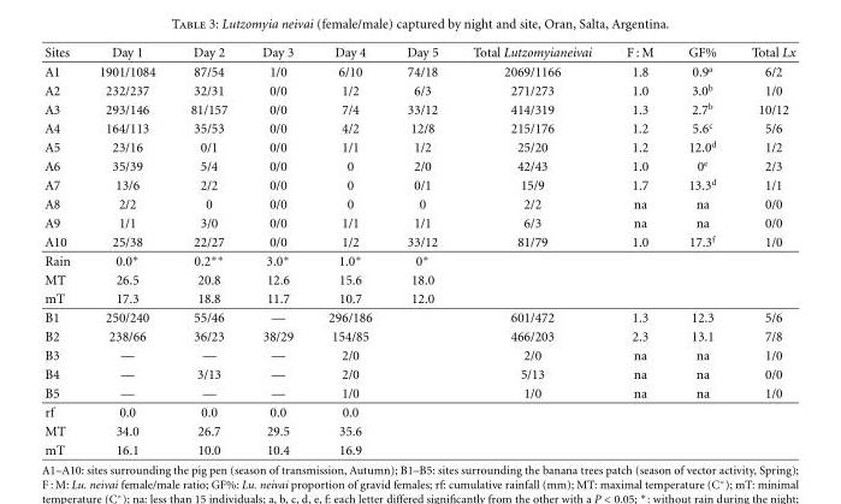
<table><thead><tr><td>Sites</td><td>Day 1</td><td>Day 2</td><td>Day 3</td><td>Day 4</td><td>Day 5</td><td>Total Lutzomyianeivai</td><td>F : M</td><td>GF%</td><td>Total Lx</td></tr></thead><tbody><tr><td>A1</td><td>1901/1084</td><td>87/54</td><td>1/0</td><td>6/10</td><td>74/18</td><td>2069/1166</td><td>1.8</td><td>0.9<sup>a</sup></td><td>6/2</td></tr><tr><td>A2</td><td>232/237</td><td>32/31</td><td>0/0</td><td>1/2</td><td>6/3</td><td>271/273</td><td>1.0</td><td>3.0<sup>b</sup></td><td>1/0</td></tr><tr><td>A3</td><td>293/146</td><td>81/157</td><td>0/0</td><td>7/4</td><td>33/12</td><td>414/319</td><td>1.3</td><td>2.7<sup>b</sup></td><td>10/12</td></tr><tr><td>A4</td><td>164/113</td><td>35/53</td><td>0/0</td><td>4/2</td><td>12/8</td><td>215/176</td><td>1.2</td><td>5.6<sup>c</sup></td><td>5/6</td></tr><tr><td>A5</td><td>23/16</td><td>0/1</td><td>0/0</td><td>1/1</td><td>1/2</td><td>25/20</td><td>1.2</td><td>12.0<sup>d</sup></td><td>1/2</td></tr><tr><td>A6</td><td>35/39</td><td>5/4</td><td>0/0</td><td>0</td><td>2/0</td><td>42/43</td><td>1.0</td><td>0<sup>e</sup></td><td>2/3</td></tr><tr><td>A7</td><td>13/6</td><td>2/2</td><td>0/0</td><td>0</td><td>0/1</td><td>15/9</td><td>1.7</td><td>13.3<sup>d</sup></td><td>1/1</td></tr><tr><td>A8</td><td>2/2</td><td>0</td><td>0/0</td><td>0</td><td>0</td><td>2/2</td><td>na</td><td>na</td><td>0/0</td></tr><tr><td>A9</td><td>1/1</td><td>3/0</td><td>0/0</td><td>1/1</td><td>1/1</td><td>6/3</td><td>na</td><td>na</td><td>0/0</td></tr><tr><td>A10</td><td>25/38</td><td>22/27</td><td>0/0</td><td>1/2</td><td>33/12</td><td>81/79</td><td>1.0</td><td>17.3<sup>f</sup></td><td>1/0</td></tr><tr><td>Rain</td><td>0.0∗</td><td>0.2∗∗</td><td>3.0∗</td><td>1.0∗</td><td>0∗</td><td></td><td></td><td></td><td></td></tr><tr><td>MT</td><td>26.5</td><td>20.8</td><td>12.6</td><td>15.6</td><td>18.0</td><td></td><td></td><td></td><td></td></tr><tr><td>mT</td><td>17.3</td><td>18.8</td><td>11.7</td><td>10.7</td><td>12.0</td><td></td><td></td><td></td><td></td></tr><tr><td>B1</td><td>250/240</td><td>55/46</td><td>—</td><td>296/186</td><td></td><td>601/472</td><td>1.3</td><td>12.3</td><td>5/6</td></tr><tr><td>B2</td><td>238/66</td><td>36/23</td><td>38/29</td><td>154/85</td><td></td><td>466/203</td><td>2.3</td><td>13.1</td><td>7/8</td></tr><tr><td>B3</td><td>—</td><td>—</td><td>—</td><td>2/0</td><td></td><td>2/0</td><td>na</td><td>na</td><td>1/0</td></tr><tr><td>B4</td><td>—</td><td>3/13</td><td>—</td><td>2/0</td><td></td><td>5/13</td><td>na</td><td>na</td><td>0/0</td></tr><tr><td>B5</td><td>—</td><td>—</td><td>—</td><td>1/0</td><td></td><td>1/0</td><td>na</td><td>na</td><td>1/0</td></tr><tr><td>rf</td><td>0.0</td><td>0.0</td><td>0.0</td><td>0.0</td><td></td><td></td><td></td><td></td><td></td></tr><tr><td>MT</td><td>34.0</td><td>26.7</td><td>29.5</td><td>35.6</td><td></td><td></td><td></td><td></td><td></td></tr><tr><td>mT</td><td>16.1</td><td>10.0</td><td>10.4</td><td>16.9</td><td></td><td></td><td></td><td></td><td></td></tr></tbody></table>